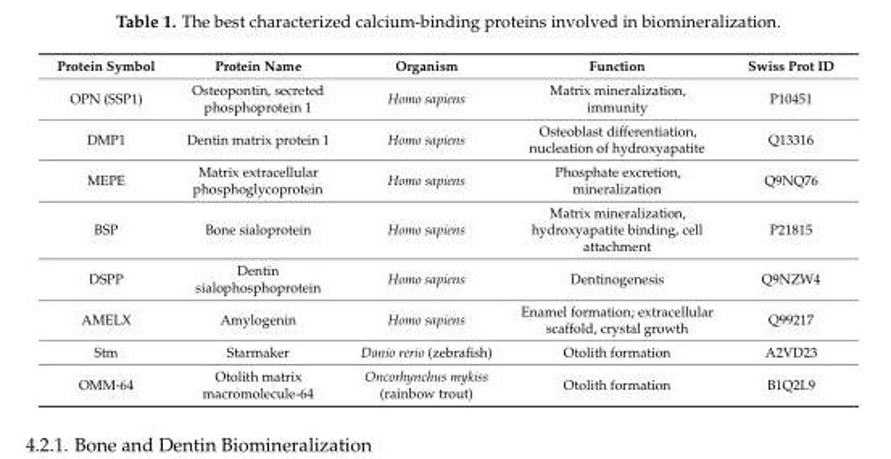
<table><thead><tr><td>Protein Symbol</td><td>Protein Name</td><td>Organism</td><td>Function</td><td>Swiss Prot ID</td></tr></thead><tbody><tr><td>OPN (SSP1)</td><td>Osteopontin, secreted phosphoprotein 1</td><td>Homo sapiens</td><td>Matrix mineralization, immunity</td><td>P10451</td></tr><tr><td>DMP1</td><td>Dentin matrix protein 1</td><td>Homo sapiens</td><td>Osteoblast differentiation, nucleation of hydroxyapatite</td><td>Q13316</td></tr><tr><td>MEPE</td><td>Matrix extracellular phosphoglycoprotein</td><td>Homo sapiens</td><td>Phosphate excretion, mineralization</td><td>Q9NQ76</td></tr><tr><td>BSP</td><td>Bone sialoprotein</td><td>Homo sapiens</td><td>Matrix mineralization, hydroxyapatite binding, cell attachment</td><td>P21815</td></tr><tr><td>DSPP</td><td>Dentin sialophosphoprotein</td><td>Homo sapiens</td><td>Dentinogenesis</td><td>Q9NZW4</td></tr><tr><td>AMELX</td><td>Amylogenin</td><td>Homo sapiens</td><td>Enamel formation; extracellular scaffold, crystal growth</td><td>Q99217</td></tr><tr><td>Stm</td><td>Starmaker</td><td>Danio rerio (zebrafish)</td><td>Otolith formation</td><td>A2VD23</td></tr><tr><td>OMM-64</td><td>Otolith matrix macromolecule-64</td><td>Oncorhynchus mykiss (rainbow trout)</td><td>Otolith formation</td><td>B1Q2L9</td></tr></tbody></table>